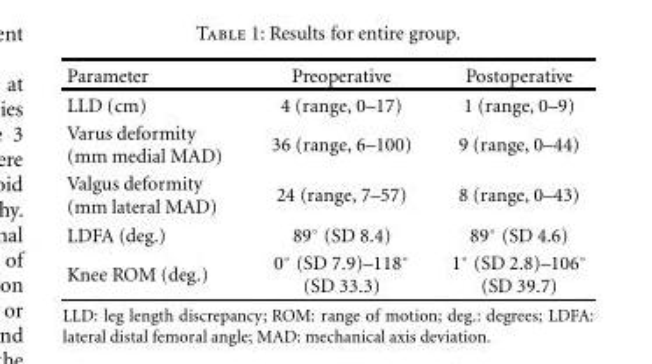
<table><thead><tr><td>Parameter</td><td>Preoperative</td><td>Postoperative</td></tr></thead><tbody><tr><td>LLD (cm)</td><td>4 (range, 0–17)</td><td>1 (range, 0–9)</td></tr><tr><td>Varus deformity (mm medial MAD)</td><td>36 (range, 6–100)</td><td>9 (range, 0–44)</td></tr><tr><td>Valgus deformity (mm lateral MAD)</td><td>24 (range, 7–57)</td><td>8 (range, 0–43)</td></tr><tr><td>LDFA (deg.)</td><td>89◦ (SD 8.4)</td><td>89◦ (SD 4.6)</td></tr><tr><td>Knee ROM (deg.)</td><td>0◦ (SD 7.9)–118◦ (SD 33.3)</td><td>1◦ (SD 2.8)–106◦ (SD 39.7)</td></tr></tbody></table>